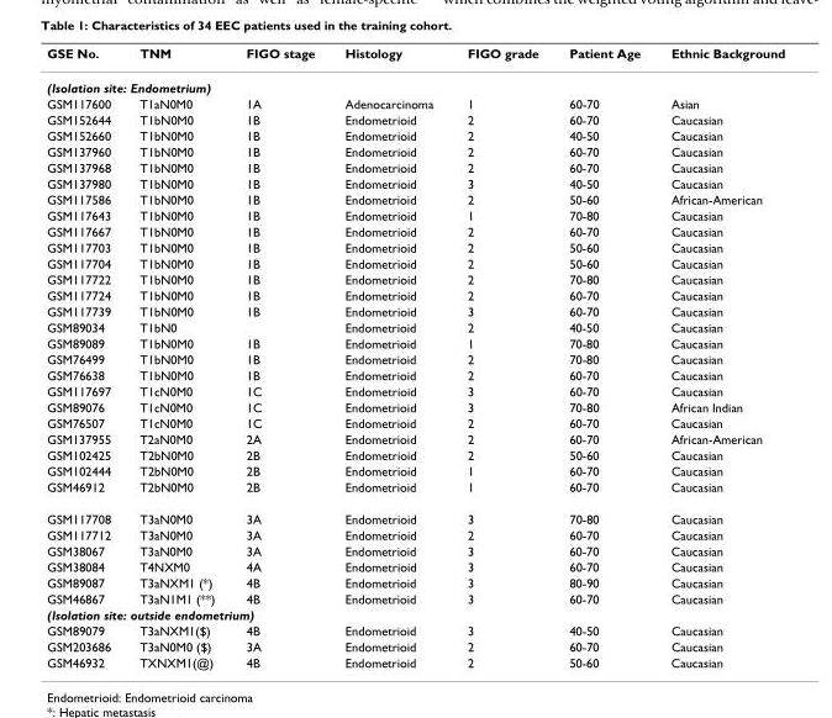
<table><thead><tr><td>GSE No.</td><td>TNM</td><td>FIGO stage</td><td>Histology</td><td>FIGO grade</td><td>Patient Age</td><td>Ethnic Background</td></tr></thead><tbody><tr><td colspan="7">(Isolation site: Endometrium)</td></tr><tr><td>GSM117600</td><td>T1aN0M0</td><td>1A</td><td>Adenocarcinoma</td><td>1</td><td>60-70</td><td>Asian</td></tr><tr><td>GSM152644</td><td>T1bN0M0</td><td>1B</td><td>Endometrioid</td><td>2</td><td>60-70</td><td>Caucasian</td></tr><tr><td>GSM152660</td><td>T1bN0M0</td><td>1B</td><td>Endometrioid</td><td>2</td><td>40-50</td><td>Caucasian</td></tr><tr><td>GSM137960</td><td>T1bN0M0</td><td>1B</td><td>Endometrioid</td><td>2</td><td>60-70</td><td>Caucasian</td></tr><tr><td>GSM137968</td><td>T1bN0M0</td><td>1B</td><td>Endometrioid</td><td>2</td><td>60-70</td><td>Caucasian</td></tr><tr><td>GSM137980</td><td>T1bN0M0</td><td>1B</td><td>Endometrioid</td><td>3</td><td>40-50</td><td>Caucasian</td></tr><tr><td>GSM117586</td><td>T1bN0M0</td><td>1B</td><td>Endometrioid</td><td>2</td><td>50-60</td><td>African-American</td></tr><tr><td>GSM117643</td><td>T1bN0M0</td><td>1B</td><td>Endometrioid</td><td>1</td><td>70-80</td><td>Caucasian</td></tr><tr><td>GSM117667</td><td>T1bN0M0</td><td>1B</td><td>Endometrioid</td><td>2</td><td>60-70</td><td>Caucasian</td></tr><tr><td>GSM117703</td><td>T1bN0M0</td><td>1B</td><td>Endometrioid</td><td>2</td><td>50-60</td><td>Caucasian</td></tr><tr><td>GSM117704</td><td>T1bN0M0</td><td>1B</td><td>Endometrioid</td><td>2</td><td>50-60</td><td>Caucasian</td></tr><tr><td>GSM117722</td><td>T1bN0M0</td><td>1B</td><td>Endometrioid</td><td>2</td><td>70-80</td><td>Caucasian</td></tr><tr><td>GSM117724</td><td>T1bN0M0</td><td>1B</td><td>Endometrioid</td><td>2</td><td>60-70</td><td>Caucasian</td></tr><tr><td>GSM117739</td><td>T1bN0M0</td><td>1B</td><td>Endometrioid</td><td>3</td><td>60-70</td><td>Caucasian</td></tr><tr><td>GSM89034</td><td>T1bN0</td><td></td><td>Endometrioid</td><td>2</td><td>40-50</td><td>Caucasian</td></tr><tr><td>GSM89089</td><td>T1bN0M0</td><td>1B</td><td>Endometrioid</td><td>1</td><td>70-80</td><td>Caucasian</td></tr><tr><td>GSM76499</td><td>T1bN0M0</td><td>1B</td><td>Endometrioid</td><td>2</td><td>70-80</td><td>Caucasian</td></tr><tr><td>GSM76638</td><td>T1bN0M0</td><td>1B</td><td>Endometrioid</td><td>2</td><td>60-70</td><td>Caucasian</td></tr><tr><td>GSM117697</td><td>T1cN0M0</td><td>1C</td><td>Endometrioid</td><td>3</td><td>60-70</td><td>Caucasian</td></tr><tr><td>GSM89076</td><td>T1cN0M0</td><td>1C</td><td>Endometrioid</td><td>3</td><td>70-80</td><td>African Indian</td></tr><tr><td>GSM76507</td><td>T1cN0M0</td><td>1C</td><td>Endometrioid</td><td>2</td><td>60-70</td><td>Caucasian</td></tr><tr><td>GSM137955</td><td>T2aN0M0</td><td>2A</td><td>Endometrioid</td><td>2</td><td>60-70</td><td>African-American</td></tr><tr><td>GSM102425</td><td>T2bN0M0</td><td>2B</td><td>Endometrioid</td><td>2</td><td>50-60</td><td>Caucasian</td></tr><tr><td>GSM102444</td><td>T2bN0M0</td><td>2B</td><td>Endometrioid</td><td>1</td><td>60-70</td><td>Caucasian</td></tr><tr><td>GSM46912</td><td>T2bN0M0</td><td>2B</td><td>Endometrioid</td><td>1</td><td>60-70</td><td>Caucasian</td></tr><tr><td>GSM117708</td><td>T3aN0M0</td><td>3A</td><td>Endometrioid</td><td>3</td><td>70-80</td><td>Caucasian</td></tr><tr><td>GSM117712</td><td>T3aN0M0</td><td>3A</td><td>Endometrioid</td><td>2</td><td>60-70</td><td>Caucasian</td></tr><tr><td>GSM38067</td><td>T3aN0M0</td><td>3A</td><td>Endometrioid</td><td>3</td><td>60-70</td><td>Caucasian</td></tr><tr><td>GSM38084</td><td>T4NXM0</td><td>4A</td><td>Endometrioid</td><td>3</td><td>60-70</td><td>Caucasian</td></tr><tr><td>GSM89087</td><td>T3aNXM1 (*)</td><td>4B</td><td>Endometrioid</td><td>3</td><td>80-90</td><td>Caucasian</td></tr><tr><td>GSM46867</td><td>T3aN1M1 (**)</td><td>4B</td><td>Endometrioid</td><td>3</td><td>60-70</td><td>Caucasian</td></tr><tr><td colspan="7">(Isolation site: outside endometrium)</td></tr><tr><td>GSM89079</td><td>T3aNXM1($)</td><td>4B</td><td>Endometrioid</td><td>3</td><td>40-50</td><td>Caucasian</td></tr><tr><td>GSM203686</td><td>T3aN0M0 ($)</td><td>3A</td><td>Endometrioid</td><td>2</td><td>60-70</td><td>Caucasian</td></tr><tr><td>GSM46932</td><td>TXNXM1(@)</td><td>4B</td><td>Endometrioid</td><td>2</td><td>50-60</td><td>Caucasian</td></tr></tbody></table>